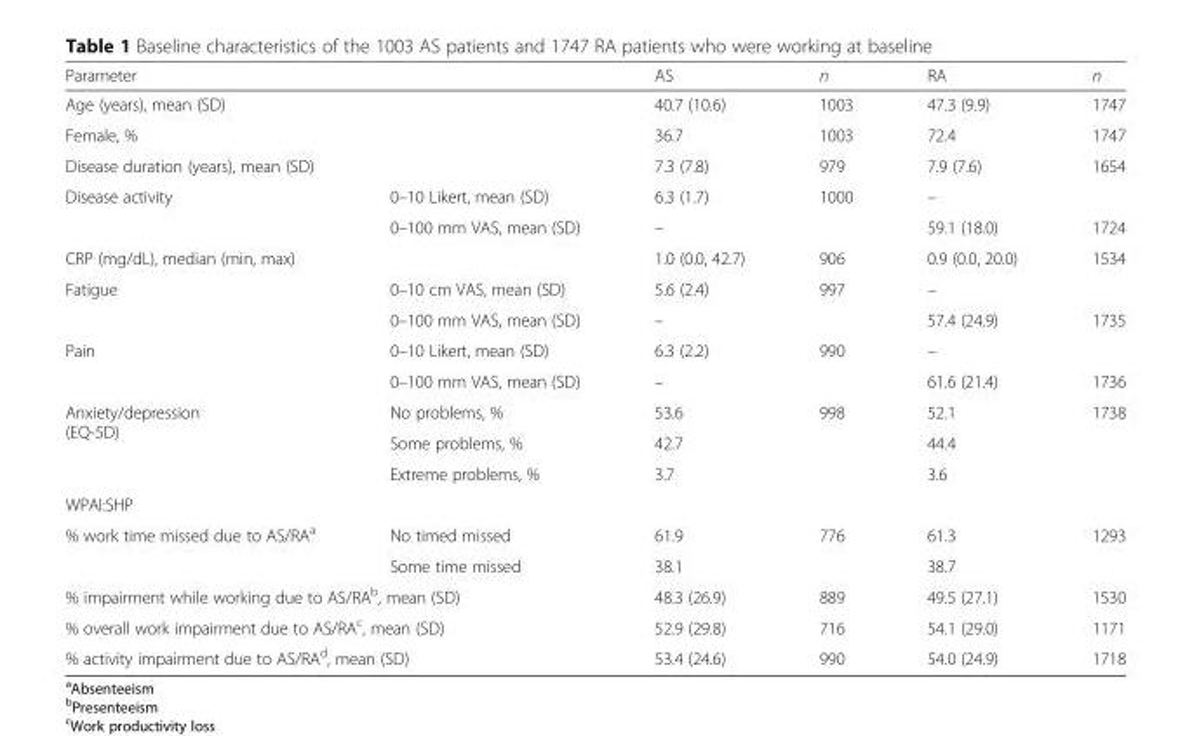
<table><thead><tr><td colspan="2">Parameter</td><td>AS</td><td>n</td><td>RA</td><td>n</td></tr></thead><tbody><tr><td colspan="2">Age (years), mean (SD)</td><td>40.7 (10.6)</td><td>1003</td><td>47.3 (9.9)</td><td>1747</td></tr><tr><td colspan="2">Female, %</td><td>36.7</td><td>1003</td><td>72.4</td><td>1747</td></tr><tr><td colspan="2">Disease duration (years), mean (SD)</td><td>7.3 (7.8)</td><td>979</td><td>7.9 (7.6)</td><td>1654</td></tr><tr><td rowspan="2">Disease activity</td><td>0–10 Likert, mean (SD)</td><td>6.3 (1.7)</td><td>1000</td><td>–</td><td></td></tr><tr><td>0–100 mm VAS, mean (SD)</td><td>–</td><td></td><td>59.1 (18.0)</td><td>1724</td></tr><tr><td colspan="2">CRP (mg/dL), median (min, max)</td><td>1.0 (0.0, 42.7)</td><td>906</td><td>0.9 (0.0, 20.0)</td><td>1534</td></tr><tr><td rowspan="2">Fatigue</td><td>0–10 cm VAS, mean (SD)</td><td>5.6 (2.4)</td><td>997</td><td>–</td><td></td></tr><tr><td>0–100 mm VAS, mean (SD)</td><td>–</td><td></td><td>57.4 (24.9)</td><td>1735</td></tr><tr><td rowspan="2">Pain</td><td>0–10 Likert, mean (SD)</td><td>6.3 (2.2)</td><td>990</td><td>–</td><td></td></tr><tr><td>0–100 mm VAS, mean (SD)</td><td>–</td><td></td><td>61.6 (21.4)</td><td>1736</td></tr><tr><td rowspan="3">Anxiety/depression (EQ-5D)</td><td>No problems, %</td><td>53.6</td><td rowspan="3">998</td><td>52.1</td><td rowspan="3">1738</td></tr><tr><td>Some problems, %</td><td>42.7</td><td>44.4</td></tr><tr><td>Extreme problems, %</td><td>3.7</td><td>3.6</td></tr><tr><td colspan="6">WPAI:SHP</td></tr><tr><td rowspan="2">% work time missed due to AS/RA<sup>a</sup></td><td>No timed missed</td><td>61.9</td><td rowspan="2">776</td><td>61.3</td><td rowspan="2">1293</td></tr><tr><td>Some time missed</td><td>38.1</td><td>38.7</td></tr><tr><td colspan="2">% impairment while working due to AS/RA<sup>b</sup>, mean (SD)</td><td>48.3 (26.9)</td><td>889</td><td>49.5 (27.1)</td><td>1530</td></tr><tr><td colspan="2">% overall work impairment due to AS/RA<sup>c</sup>, mean (SD)</td><td>52.9 (29.8)</td><td>716</td><td>54.1 (29.0)</td><td>1171</td></tr><tr><td colspan="2">% activity impairment due to AS/RA<sup>d</sup>, mean (SD)</td><td>53.4 (24.6)</td><td>990</td><td>54.0 (24.9)</td><td>1718</td></tr></tbody></table>